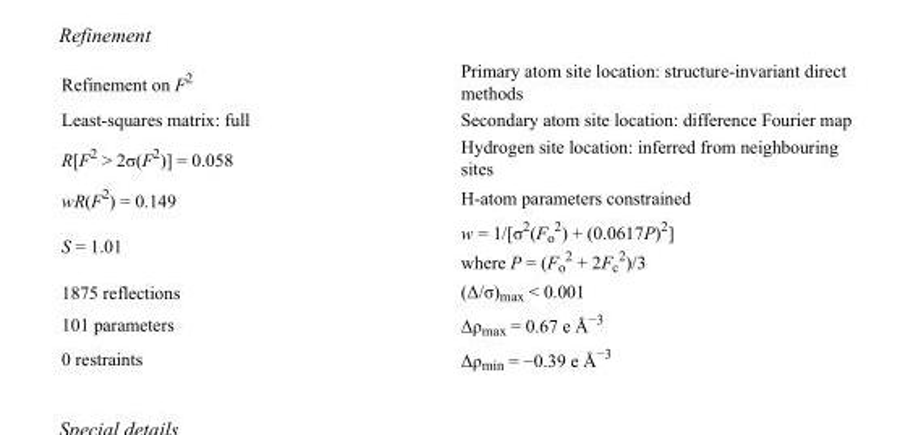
<table><tbody><tr><td>Refinement on F<sup>2</sup></td><td>Primary atom site location: structure-invariant direct methods</td></tr><tr><td>Least-squares matrix: full</td><td>Secondary atom site location: difference Fourier map</td></tr><tr><td>R[F<sup>2</sup> &gt; 2σ(F<sup>2</sup>)] = 0.058</td><td>Hydrogen site location: inferred from neighbouring sites</td></tr><tr><td>wR(F<sup>2</sup>) = 0.149</td><td>H-atom parameters constrained</td></tr><tr><td>S = 1.01</td><td>w = 1/[σ<sup>2</sup>(F<sub>o</sub> <sup>2</sup>) + (0.0617P)<sup>2</sup>] where P = (F<sub>o</sub> <sup>2</sup> + 2F<sub>c</sub> <sup>2</sup>)/3</td></tr><tr><td>1875 reflections</td><td>(Δ/σ)<sub>max</sub> &lt; 0.001</td></tr><tr><td>101 parameters</td><td>Δρ<sub>max</sub> = 0.67 e Å<sup>−3</sup></td></tr><tr><td>0 restraints</td><td>Δρ<sub>min</sub> = −0.39 e Å<sup>−3</sup></td></tr></tbody></table>